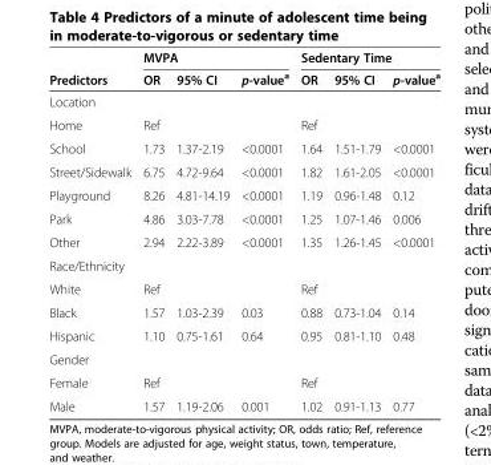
<table><thead><tr><td rowspan="2">Predictors</td><td colspan="3">MVPA</td><td colspan="3">Sedentary Time</td></tr><tr><td>OR</td><td>95% CI</td><td>p-value<sup>a</sup></td><td>OR</td><td>95% CI</td><td>p-value<sup>a</sup></td></tr></thead><tbody><tr><td colspan="7">Location</td></tr><tr><td>Home</td><td>Ref</td><td></td><td></td><td>Ref</td><td></td><td></td></tr><tr><td>School</td><td>1.73</td><td>1.37-2.19</td><td>&lt;0.0001</td><td>1.64</td><td>1.51-1.79</td><td>&lt;0.0001</td></tr><tr><td>Street/Sidewalk</td><td>6.75</td><td>4.72-9.64</td><td>&lt;0.0001</td><td>1.82</td><td>1.61-2.05</td><td>&lt;0.0001</td></tr><tr><td>Playground</td><td>8.26</td><td>4.81-14.19</td><td>&lt;0.0001</td><td>1.19</td><td>0.96-1.48</td><td>0.12</td></tr><tr><td>Park</td><td>4.86</td><td>3.03-7.78</td><td>&lt;0.0001</td><td>1.25</td><td>1.07-1.46</td><td>0.006</td></tr><tr><td>Other</td><td>2.94</td><td>2.22-3.89</td><td>&lt;0.0001</td><td>1.35</td><td>1.26-1.45</td><td>&lt;0.0001</td></tr><tr><td colspan="7">Race/Ethnicity</td></tr><tr><td>White</td><td>Ref</td><td></td><td></td><td>Ref</td><td></td><td></td></tr><tr><td>Black</td><td>1.57</td><td>1.03-2.39</td><td>0.03</td><td>0.88</td><td>0.73-1.04</td><td>0.14</td></tr><tr><td>Hispanic</td><td>1.10</td><td>0.75-1.61</td><td>0.64</td><td>0.95</td><td>0.81-1.10</td><td>0.48</td></tr><tr><td colspan="7">Gender</td></tr><tr><td>Female</td><td>Ref</td><td></td><td></td><td>Ref</td><td></td><td></td></tr><tr><td>Male</td><td>1.57</td><td>1.19-2.06</td><td>0.001</td><td>1.02</td><td>0.91-1.13</td><td>0.77</td></tr></tbody></table>